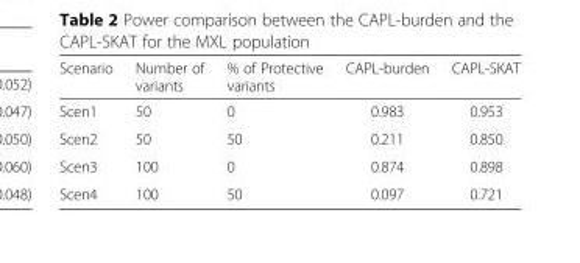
<table><thead><tr><td>Scenario</td><td>Number of variants</td><td>% of Protective variants</td><td>CAPL-burden</td><td>CAPL-SKAT</td></tr></thead><tbody><tr><td>Scen1</td><td>50</td><td>0</td><td>0.983</td><td>0.953</td></tr><tr><td>Scen2</td><td>50</td><td>50</td><td>0.211</td><td>0.850</td></tr><tr><td>Scen3</td><td>100</td><td>0</td><td>0.874</td><td>0.898</td></tr><tr><td>Scen4</td><td>100</td><td>50</td><td>0.097</td><td>0.721</td></tr></tbody></table>